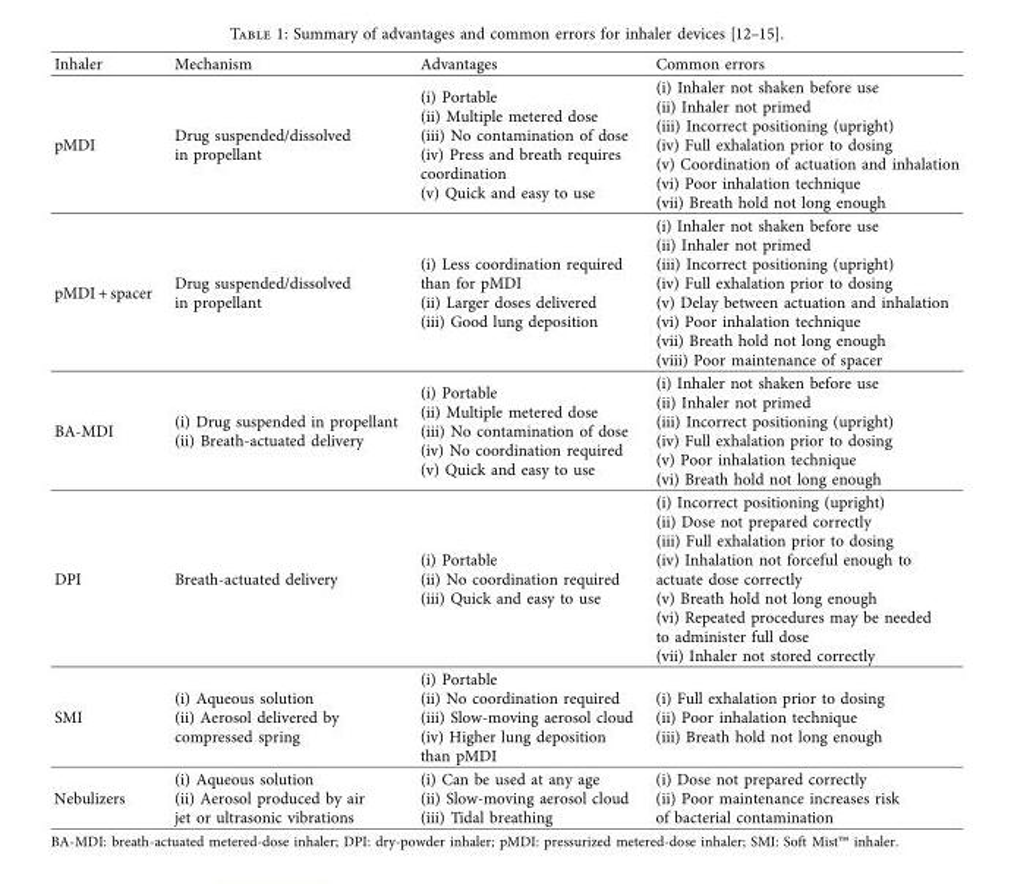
<table><thead><tr><td>Inhaler</td><td>Mechanism</td><td>Advantages</td><td>Common errors</td></tr></thead><tbody><tr><td>pMDI</td><td>Drug suspended/dissolved in propellant</td><td>(i) Portable (ii) Multiple metered dose (iii) No contamination of dose (iv) Press and breath requires coordination (v) Quick and easy to use</td><td>(i) Inhaler not shaken before use (ii) Inhaler not primed (iii) Incorrect positioning (upright) (iv) Full exhalation prior to dosing (v) Coordination of actuation and inhalation (vi) Poor inhalation technique (vii) Breath hold not long enough</td></tr><tr><td>pMDI + spacer</td><td>Drug suspended/dissolved in propellant</td><td>(i) Less coordination required than for pMDI (ii) Larger doses delivered (iii) Good lung deposition</td><td>(i) Inhaler not shaken before use (ii) Inhaler not primed (iii) Incorrect positioning (upright) (iv) Full exhalation prior to dosing (v) Delay between actuation and inhalation (vi) Poor inhalation technique (vii) Breath hold not long enough (viii) Poor maintenance of spacer</td></tr><tr><td>BA-MDI</td><td>(i) Drug suspended in propellant (ii) Breath-actuated delivery</td><td>(i) Portable (ii) Multiple metered dose (iii) No contamination of dose (iv) No coordination required (v) Quick and easy to use</td><td>(i) Inhaler not shaken before use (ii) Inhaler not primed (iii) Incorrect positioning (upright) (iv) Full exhalation prior to dosing (v) Poor inhalation technique (vi) Breath hold not long enough</td></tr><tr><td>DPI</td><td>Breath-actuated delivery</td><td>(i) Portable (ii) No coordination required (iii) Quick and easy to use</td><td>(i) Incorrect positioning (upright) (ii) Dose not prepared correctly (iii) Full exhalation prior to dosing (iv) Inhalation not forceful enough to actuate dose correctly (v) Breath hold not long enough (vi) Repeated procedures may be needed to administer full dose (vii) Inhaler not stored correctly</td></tr><tr><td>SMI</td><td>(i) Aqueous solution (ii) Aerosol delivered by compressed spring</td><td>(i) Portable (ii) No coordination required (iii) Slow-moving aerosol cloud (iv) Higher lung deposition than pMDI</td><td>(i) Full exhalation prior to dosing (ii) Poor inhalation technique (iii) Breath hold not long enough</td></tr><tr><td>Nebulizers</td><td>(i) Aqueous solution (ii) Aerosol produced by air jet or ultrasonic vibrations</td><td>(i) Can be used at any age (ii) Slow-moving aerosol cloud (iii) Tidal breathing</td><td>(i) Dose not prepared correctly (ii) Poor maintenance increases risk of bacterial contamination</td></tr></tbody></table>